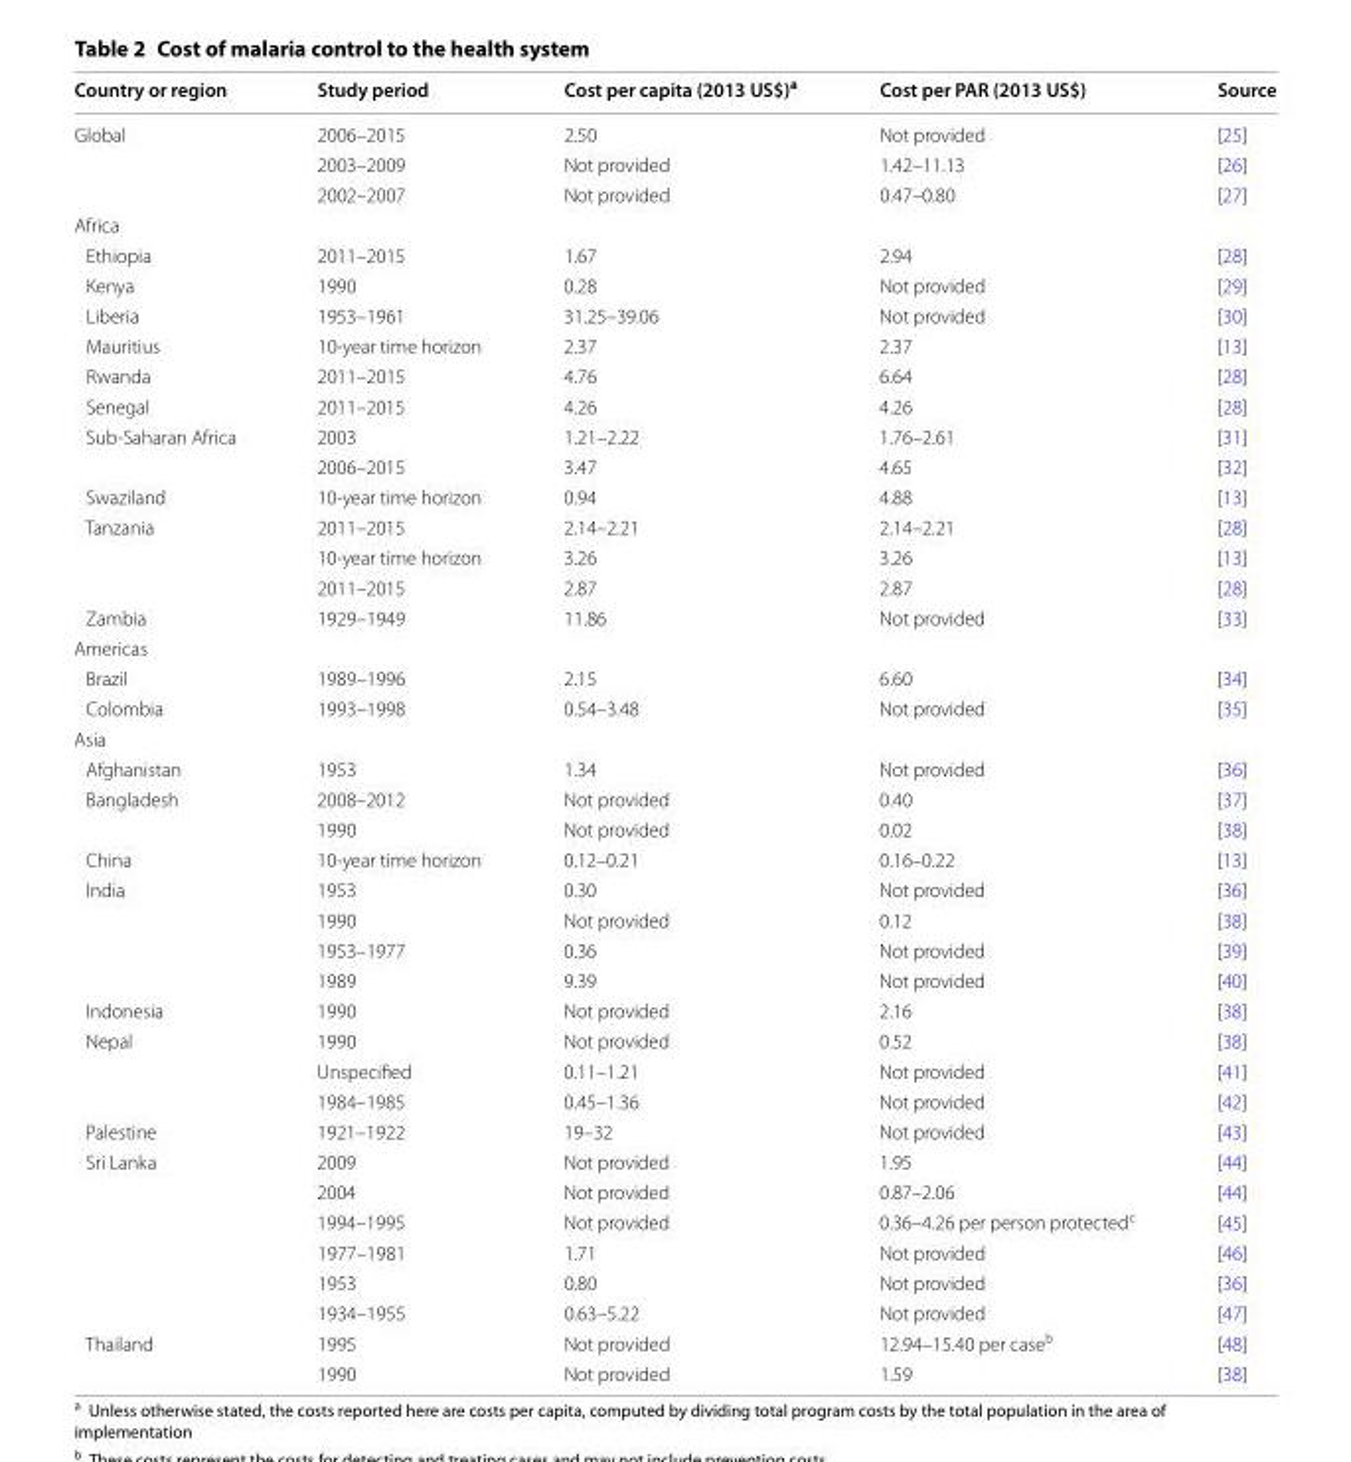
<table><thead><tr><td>Country or region</td><td>Study period</td><td>Cost per capita (2013 US$)<sup>a</sup></td><td>Cost per PAR (2013 US$)</td><td>Source</td></tr></thead><tbody><tr><td rowspan="3">Global</td><td>2006–2015</td><td>2.50</td><td>Not provided</td><td>[25]</td></tr><tr><td>2003–2009</td><td>Not provided</td><td>1.42–11.13</td><td>[26]</td></tr><tr><td>2002–2007</td><td>Not provided</td><td>0.47–0.80</td><td>[27]</td></tr><tr><td colspan="5">Africa</td></tr><tr><td>Ethiopia</td><td>2011–2015</td><td>1.67</td><td>2.94</td><td>[28]</td></tr><tr><td>Kenya</td><td>1990</td><td>0.28</td><td>Not provided</td><td>[29]</td></tr><tr><td>Liberia</td><td>1953–1961</td><td>31.25–39.06</td><td>Not provided</td><td>[30]</td></tr><tr><td>Mauritius</td><td>10-year time horizon</td><td>2.37</td><td>2.37</td><td>[13]</td></tr><tr><td>Rwanda</td><td>2011–2015</td><td>4.76</td><td>6.64</td><td>[28]</td></tr><tr><td>Senegal</td><td>2011–2015</td><td>4.26</td><td>4.26</td><td>[28]</td></tr><tr><td rowspan="2">Sub-Saharan Africa</td><td>2003</td><td>1.21–2.22</td><td>1.76–2.61</td><td>[31]</td></tr><tr><td>2006–2015</td><td>3.47</td><td>4.65</td><td>[32]</td></tr><tr><td>Swaziland</td><td>10-year time horizon</td><td>0.94</td><td>4.88</td><td>[13]</td></tr><tr><td rowspan="3">Tanzania</td><td>2011–2015</td><td>2.14–2.21</td><td>2.14–2.21</td><td>[28]</td></tr><tr><td>10-year time horizon</td><td>3.26</td><td>3.26</td><td>[13]</td></tr><tr><td>2011–2015</td><td>2.87</td><td>2.87</td><td>[28]</td></tr><tr><td>Zambia</td><td>1929–1949</td><td>11.86</td><td>Not provided</td><td>[33]</td></tr><tr><td colspan="5">Americas</td></tr><tr><td>Brazil</td><td>1989–1996</td><td>2.15</td><td>6.60</td><td>[34]</td></tr><tr><td>Colombia</td><td>1993–1998</td><td>0.54–3.48</td><td>Not provided</td><td>[35]</td></tr><tr><td colspan="5">Asia</td></tr><tr><td>Afghanistan</td><td>1953</td><td>1.34</td><td>Not provided</td><td>[36]</td></tr><tr><td rowspan="2">Bangladesh</td><td>2008–2012</td><td>Not provided</td><td>0.40</td><td>[37]</td></tr><tr><td>1990</td><td>Not provided</td><td>0.02</td><td>[38]</td></tr><tr><td>China</td><td>10-year time horizon</td><td>0.12–0.21</td><td>0.16–0.22</td><td>[13]</td></tr><tr><td rowspan="4">India</td><td>1953</td><td>0.30</td><td>Not provided</td><td>[36]</td></tr><tr><td>1990</td><td>Not provided</td><td>0.12</td><td>[38]</td></tr><tr><td>1953–1977</td><td>0.36</td><td>Not provided</td><td>[39]</td></tr><tr><td>1989</td><td>9.39</td><td>Not provided</td><td>[40]</td></tr><tr><td>Indonesia</td><td>1990</td><td>Not provided</td><td>2.16</td><td>[38]</td></tr><tr><td rowspan="3">Nepal</td><td>1990</td><td>Not provided</td><td>0.52</td><td>[38]</td></tr><tr><td>Unspecified</td><td>0.11–1.21</td><td>Not provided</td><td>[41]</td></tr><tr><td>1984–1985</td><td>0.45–1.36</td><td>Not provided</td><td>[42]</td></tr><tr><td>Palestine</td><td>1921–1922</td><td>19–32</td><td>Not provided</td><td>[43]</td></tr><tr><td rowspan="6">Sri Lanka</td><td>2009</td><td>Not provided</td><td>1.95</td><td>[44]</td></tr><tr><td>2004</td><td>Not provided</td><td>0.87–2.06</td><td>[44]</td></tr><tr><td>1994–1995</td><td>Not provided</td><td>0.36–4.26 per person protected<sup>c</sup></td><td>[45]</td></tr><tr><td>1977–1981</td><td>1.71</td><td>Not provided</td><td>[46]</td></tr><tr><td>1953</td><td>0.80</td><td>Not provided</td><td>[36]</td></tr><tr><td>1934–1955</td><td>0.63–5.22</td><td>Not provided</td><td>[47]</td></tr><tr><td rowspan="2">Thailand</td><td>1995</td><td>Not provided</td><td>12.94–15.40 per case<sup>b</sup></td><td>[48]</td></tr><tr><td>1990</td><td>Not provided</td><td>1.59</td><td>[38]</td></tr></tbody></table>